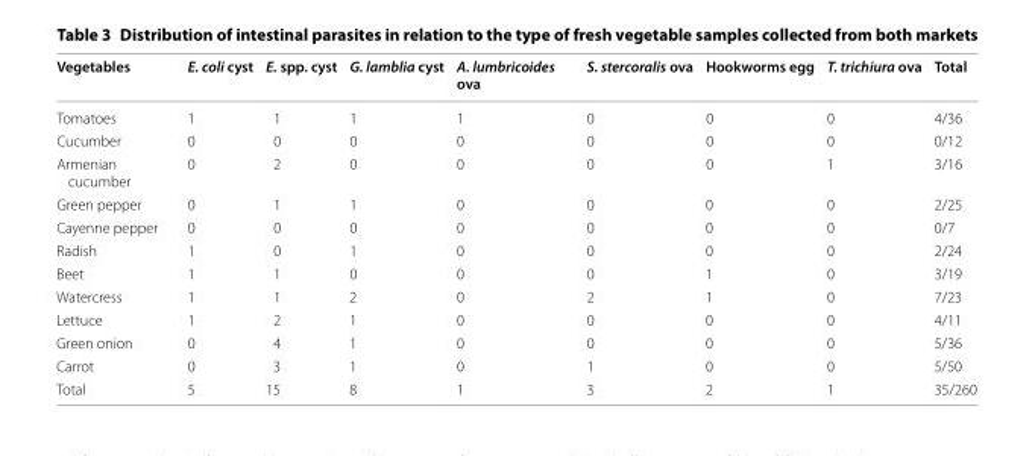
<table><thead><tr><td>Vegetables</td><td>E. coli cyst</td><td>E. spp. cyst</td><td>G. lamblia cyst</td><td>A. lumbricoides ova</td><td>S. stercoralis ova</td><td>Hookworms egg</td><td>T. trichiura ova</td><td>Total</td></tr></thead><tbody><tr><td>Tomatoes</td><td>1</td><td>1</td><td>1</td><td>1</td><td>0</td><td>0</td><td>0</td><td>4/36</td></tr><tr><td>Cucumber</td><td>0</td><td>0</td><td>0</td><td>0</td><td>0</td><td>0</td><td>0</td><td>0/12</td></tr><tr><td>Armenian cucumber</td><td>0</td><td>2</td><td>0</td><td>0</td><td>0</td><td>0</td><td>1</td><td>3/16</td></tr><tr><td>Green pepper</td><td>0</td><td>1</td><td>1</td><td>0</td><td>0</td><td>0</td><td>0</td><td>2/25</td></tr><tr><td>Cayenne pepper</td><td>0</td><td>0</td><td>0</td><td>0</td><td>0</td><td>0</td><td>0</td><td>0/7</td></tr><tr><td>Radish</td><td>1</td><td>0</td><td>1</td><td>0</td><td>0</td><td>0</td><td>0</td><td>2/24</td></tr><tr><td>Beet</td><td>1</td><td>1</td><td>0</td><td>0</td><td>0</td><td>1</td><td>0</td><td>3/19</td></tr><tr><td>Watercress</td><td>1</td><td>1</td><td>2</td><td>0</td><td>2</td><td>1</td><td>0</td><td>7/23</td></tr><tr><td>Lettuce</td><td>1</td><td>2</td><td>1</td><td>0</td><td>0</td><td>0</td><td>0</td><td>4/11</td></tr><tr><td>Green onion</td><td>0</td><td>4</td><td>1</td><td>0</td><td>0</td><td>0</td><td>0</td><td>5/36</td></tr><tr><td>Carrot</td><td>0</td><td>3</td><td>1</td><td>0</td><td>1</td><td>0</td><td>0</td><td>5/50</td></tr><tr><td>Total</td><td>5</td><td>15</td><td>8</td><td>1</td><td>3</td><td>2</td><td>1</td><td>35/260</td></tr></tbody></table>